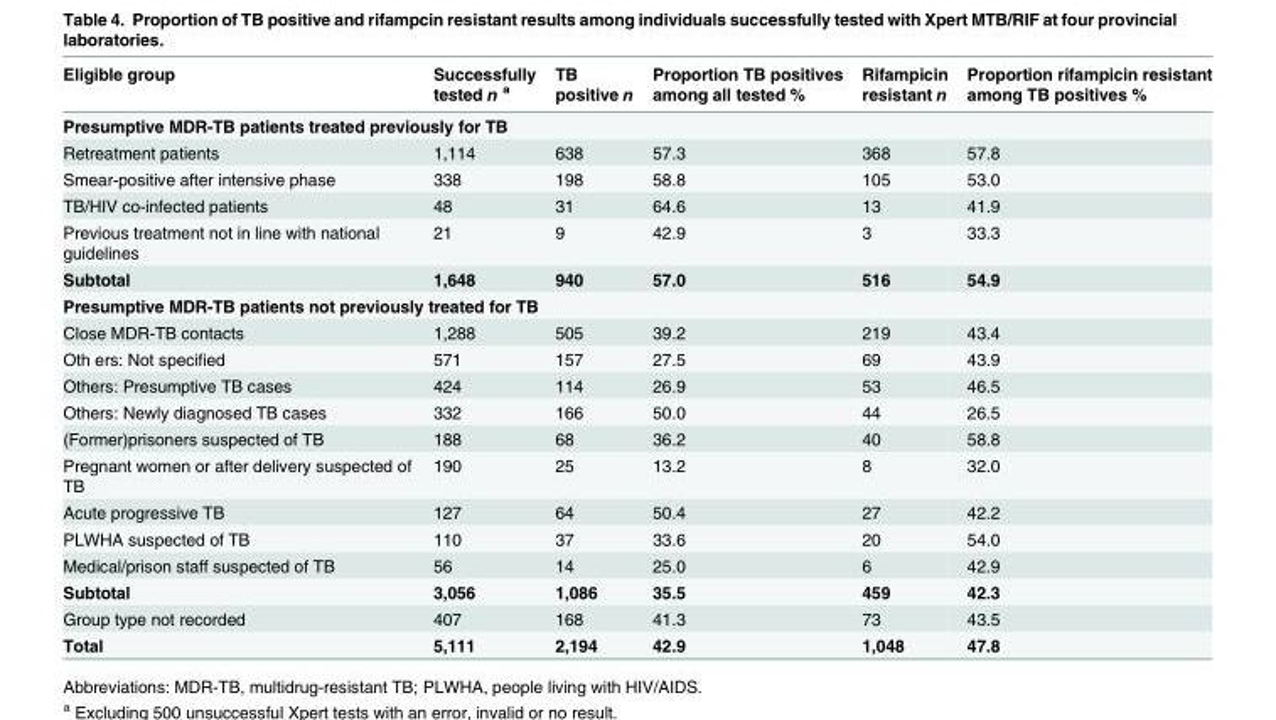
<table><thead><tr><td>Eligible group</td><td>Successfully tested n <sup>a</sup></td><td>TB positive n</td><td>Proportion TB positives among all tested %</td><td>Rifampicin resistant n</td><td>Proportion rifampicin resistant among TB positives %</td></tr></thead><tbody><tr><td colspan="6">Presumptive MDR-TB patients treated previously for TB</td></tr><tr><td>Retreatment patients</td><td>1,114</td><td>638</td><td>57.3</td><td>368</td><td>57.8</td></tr><tr><td>Smear-positive after intensive phase</td><td>338</td><td>198</td><td>58.8</td><td>105</td><td>53.0</td></tr><tr><td>TB/HIV co-infected patients</td><td>48</td><td>31</td><td>64.6</td><td>13</td><td>41.9</td></tr><tr><td>Previous treatment not in line with national guidelines</td><td>21</td><td>9</td><td>42.9</td><td>3</td><td>33.3</td></tr><tr><td>Subtotal</td><td>1,648</td><td>940</td><td>57.0</td><td>516</td><td>54.9</td></tr><tr><td colspan="6">Presumptive MDR-TB patients not previously treated for TB</td></tr><tr><td>Close MDR-TB contacts</td><td>1,288</td><td>505</td><td>39.2</td><td>219</td><td>43.4</td></tr><tr><td>Oth ers: Not specified</td><td>571</td><td>157</td><td>27.5</td><td>69</td><td>43.9</td></tr><tr><td>Others: Presumptive TB cases</td><td>424</td><td>114</td><td>26.9</td><td>53</td><td>46.5</td></tr><tr><td>Others: Newly diagnosed TB cases</td><td>332</td><td>166</td><td>50.0</td><td>44</td><td>26.5</td></tr><tr><td>(Former)prisoners suspected of TB</td><td>188</td><td>68</td><td>36.2</td><td>40</td><td>58.8</td></tr><tr><td>Pregnant women or after delivery suspected of TB</td><td>190</td><td>25</td><td>13.2</td><td>8</td><td>32.0</td></tr><tr><td>Acute progressive TB</td><td>127</td><td>64</td><td>50.4</td><td>27</td><td>42.2</td></tr><tr><td>PLWHA suspected of TB</td><td>110</td><td>37</td><td>33.6</td><td>20</td><td>54.0</td></tr><tr><td>Medical/prison staff suspected of TB</td><td>56</td><td>14</td><td>25.0</td><td>6</td><td>42.9</td></tr><tr><td>Subtotal</td><td>3,056</td><td>1,086</td><td>35.5</td><td>459</td><td>42.3</td></tr><tr><td>Group type not recorded</td><td>407</td><td>168</td><td>41.3</td><td>73</td><td>43.5</td></tr><tr><td>Total</td><td>5,111</td><td>2,194</td><td>42.9</td><td>1,048</td><td>47.8</td></tr></tbody></table>